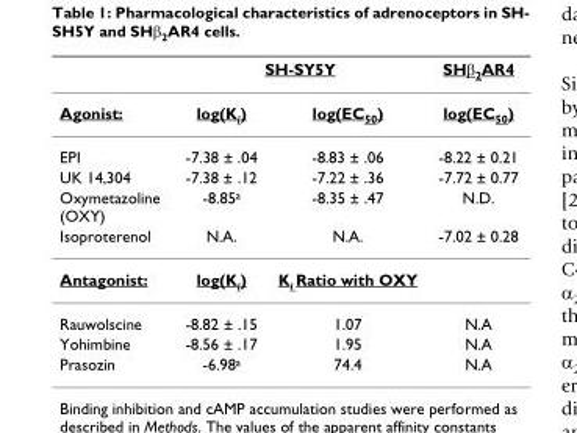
<table><thead><tr><td rowspan="2">Agonist:</td><td colspan="2">SH-SY5Y</td><td rowspan="2">SHβ2AR4 log(EC50)</td></tr><tr><td>log(Ki)</td><td>log(EC50)</td></tr></thead><tbody><tr><td>EPI</td><td>-7.38 ± .04</td><td>-8.83 ± .06</td><td>-8.22 ± 0.21</td></tr><tr><td>UK 14,304</td><td>-7.38 ± .12</td><td>-7.22 ± .36</td><td>-7.72 ± 0.77</td></tr><tr><td>Oxymetazoline (OXY)</td><td>-8.85<sup>a</sup></td><td>-8.35 ± .47</td><td>N.D.</td></tr><tr><td>Isoproterenol</td><td>N.A.</td><td>N.A.</td><td>-7.02 ± 0.28</td></tr><tr><td>Antagonist:</td><td>log(Ki)</td><td>K<sub>i</sub> Ratio with OXY</td><td></td></tr><tr><td>Rauwolscine</td><td>-8.82 ± .15</td><td>1.07</td><td>N.A</td></tr><tr><td>Yohimbine</td><td>-8.56 ± .17</td><td>1.95</td><td>N.A</td></tr><tr><td>Prasozin</td><td>-6.98<sup>a</sup></td><td>74.4</td><td>N.A</td></tr></tbody></table>